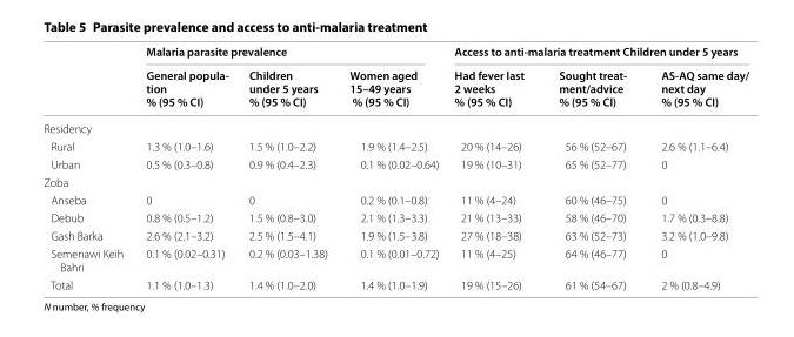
<table><thead><tr><td rowspan="2"></td><td colspan="3">Malaria parasite prevalence</td><td colspan="3">Access to anti-malaria treatment Children under 5 years</td></tr><tr><td>General popula- tion % (95 % CI)</td><td>Children under 5 years % (95 % CI)</td><td>Women aged 15–49 years % (95 % CI)</td><td>Had fever last 2 weeks % (95 % CI)</td><td>Sought treat- ment/advice % (95 % CI)</td><td>AS-AQ same day/ next day % (95 % CI)</td></tr></thead><tbody><tr><td colspan="7">Residency</td></tr><tr><td>Rural</td><td>1.3 % (1.0–1.6)</td><td>1.5 % (1.0–2.2)</td><td>1.9 % (1.4–2.5)</td><td>20 % (14–26)</td><td>56 % (52–67)</td><td>2.6 % (1.1–6.4)</td></tr><tr><td>Urban</td><td>0.5 % (0.3–0.8)</td><td>0.9 % (0.4–2.3)</td><td>0.1 % (0.02–0.64)</td><td>19 % (10–31)</td><td>65 % (52–77)</td><td>0</td></tr><tr><td colspan="7">Zoba</td></tr><tr><td>Anseba</td><td>0</td><td>0</td><td>0.2 % (0.1–0.8)</td><td>11 % (4–24)</td><td>60 % (46–75)</td><td>0</td></tr><tr><td>Debub</td><td>0.8 % (0.5–1.2)</td><td>1.5 % (0.8–3.0)</td><td>2.1 % (1.3–3.3)</td><td>21 % (13–33)</td><td>58 % (46–70)</td><td>1.7 % (0.3–8.8)</td></tr><tr><td>Gash Barka</td><td>2.6 % (2.1–3.2)</td><td>2.5 % (1.5–4.1)</td><td>1.9 % (1.5–3.8)</td><td>27 % (18–38)</td><td>63 % (52–73)</td><td>3.2 % (1.0–9.8)</td></tr><tr><td>Semenawi Keih Bahri</td><td>0.1 % (0.02–0.31)</td><td>0.2 % (0.03–1.38)</td><td>0.1 % (0.01–0.72)</td><td>11 % (4–25)</td><td>64 % (46–77)</td><td>0</td></tr><tr><td>Total</td><td>1.1 % (1.0–1.3)</td><td>1.4 % (1.0–2.0)</td><td>1.4 % (1.0–1.9)</td><td>19 % (15–26)</td><td>61 % (54–67)</td><td>2 % (0.8–4.9)</td></tr></tbody></table>